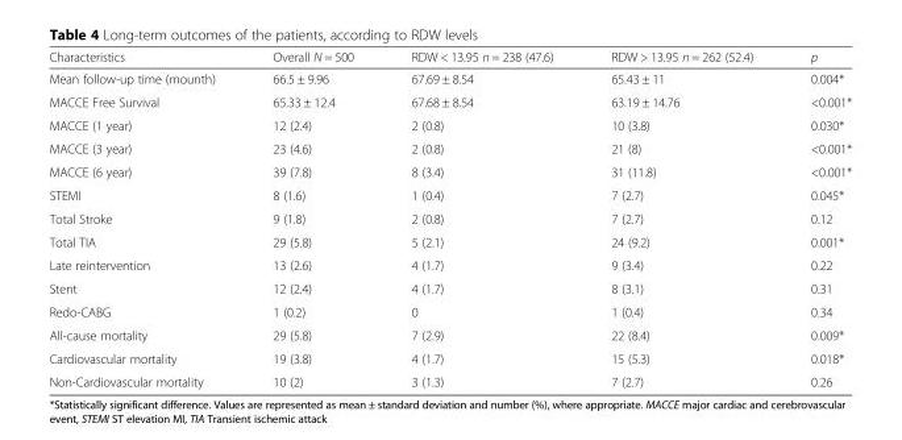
<table><thead><tr><td>Characteristics</td><td>Overall N = 500</td><td>RDW &lt; 13.95 n = 238 (47.6)</td><td>RDW &gt; 13.95 n = 262 (52.4)</td><td>p</td></tr></thead><tbody><tr><td>Mean follow-up time (mounth)</td><td>66.5 ± 9.96</td><td>67.69 ± 8.54</td><td>65.43 ± 11</td><td>0.004*</td></tr><tr><td>MACCE Free Survival</td><td>65.33 ± 12.4</td><td>67.68 ± 8.54</td><td>63.19 ± 14.76</td><td>&lt;0.001*</td></tr><tr><td>MACCE (1 year)</td><td>12 (2.4)</td><td>2 (0.8)</td><td>10 (3.8)</td><td>0.030*</td></tr><tr><td>MACCE (3 year)</td><td>23 (4.6)</td><td>2 (0.8)</td><td>21 (8)</td><td>&lt;0.001*</td></tr><tr><td>MACCE (6 year)</td><td>39 (7.8)</td><td>8 (3.4)</td><td>31 (11.8)</td><td>&lt;0.001*</td></tr><tr><td>STEMI</td><td>8 (1.6)</td><td>1 (0.4)</td><td>7 (2.7)</td><td>0.045*</td></tr><tr><td>Total Stroke</td><td>9 (1.8)</td><td>2 (0.8)</td><td>7 (2.7)</td><td>0.12</td></tr><tr><td>Total TIA</td><td>29 (5.8)</td><td>5 (2.1)</td><td>24 (9.2)</td><td>0.001*</td></tr><tr><td>Late reintervention</td><td>13 (2.6)</td><td>4 (1.7)</td><td>9 (3.4)</td><td>0.22</td></tr><tr><td>Stent</td><td>12 (2.4)</td><td>4 (1.7)</td><td>8 (3.1)</td><td>0.31</td></tr><tr><td>Redo-CABG</td><td>1 (0.2)</td><td>0</td><td>1 (0.4)</td><td>0.34</td></tr><tr><td>All-cause mortality</td><td>29 (5.8)</td><td>7 (2.9)</td><td>22 (8.4)</td><td>0.009*</td></tr><tr><td>Cardiovascular mortality</td><td>19 (3.8)</td><td>4 (1.7)</td><td>15 (5.3)</td><td>0.018*</td></tr><tr><td>Non-Cardiovascular mortality</td><td>10 (2)</td><td>3 (1.3)</td><td>7 (2.7)</td><td>0.26</td></tr></tbody></table>